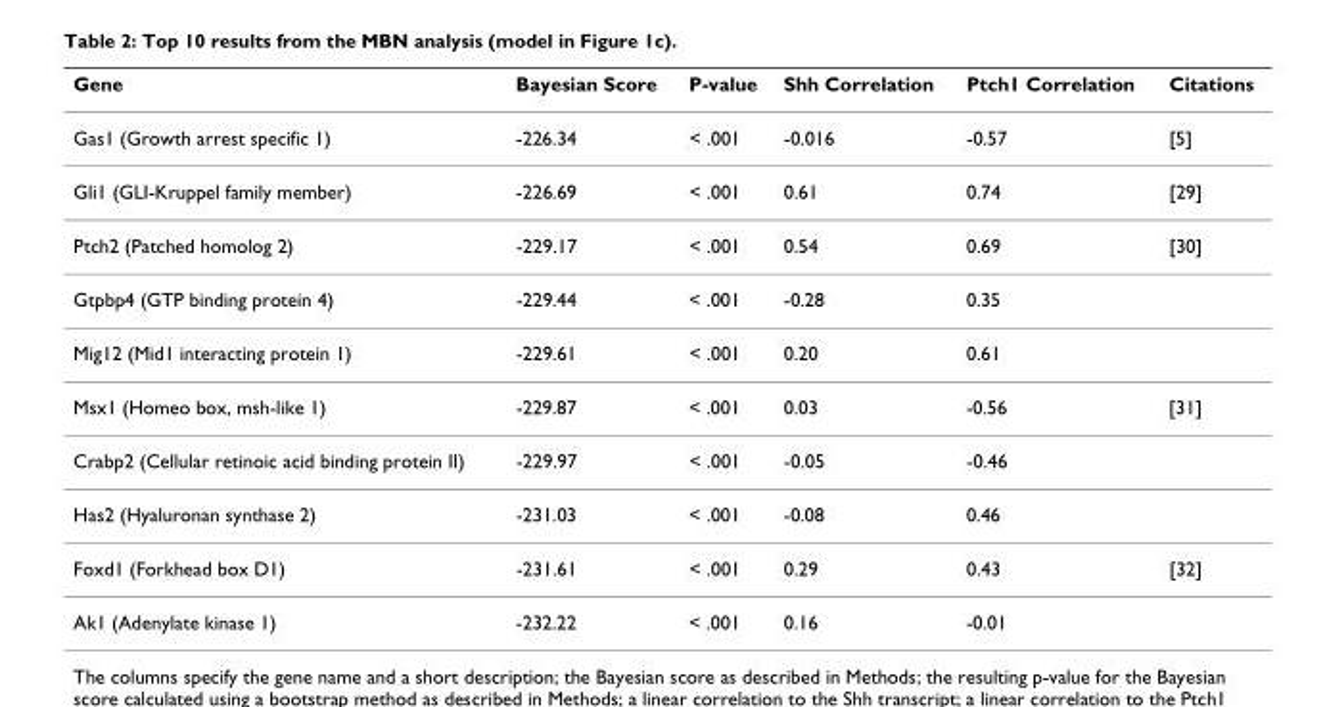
<table><thead><tr><td>Gene</td><td>Bayesian Score</td><td>P-value</td><td>Shh Correlation</td><td>Ptch1 Correlation</td><td>Citations</td></tr></thead><tbody><tr><td>Gas1 (Growth arrest specific 1)</td><td>-226.34</td><td>&lt; .001</td><td>-0.016</td><td>-0.57</td><td>[5]</td></tr><tr><td>Gli1 (GLI-Kruppel family member)</td><td>-226.69</td><td>&lt; .001</td><td>0.61</td><td>0.74</td><td>[29]</td></tr><tr><td>Ptch2 (Patched homolog 2)</td><td>-229.17</td><td>&lt; .001</td><td>0.54</td><td>0.69</td><td>[30]</td></tr><tr><td>Gtpbp4 (GTP binding protein 4)</td><td>-229.44</td><td>&lt; .001</td><td>-0.28</td><td>0.35</td><td></td></tr><tr><td>Mig12 (Mid1 interacting protein 1)</td><td>-229.61</td><td>&lt; .001</td><td>0.20</td><td>0.61</td><td></td></tr><tr><td>Msx1 (Homeo box, msh-like 1)</td><td>-229.87</td><td>&lt; .001</td><td>0.03</td><td>-0.56</td><td>[31]</td></tr><tr><td>Crabp2 (Cellular retinoic acid binding protein II)</td><td>-229.97</td><td>&lt; .001</td><td>-0.05</td><td>-0.46</td><td></td></tr><tr><td>Has2 (Hyaluronan synthase 2)</td><td>-231.03</td><td>&lt; .001</td><td>-0.08</td><td>0.46</td><td></td></tr><tr><td>Foxd1 (Forkhead box D1)</td><td>-231.61</td><td>&lt; .001</td><td>0.29</td><td>0.43</td><td>[32]</td></tr><tr><td>Ak1 (Adenylate kinase 1)</td><td>-232.22</td><td>&lt; .001</td><td>0.16</td><td>-0.01</td><td></td></tr></tbody></table>